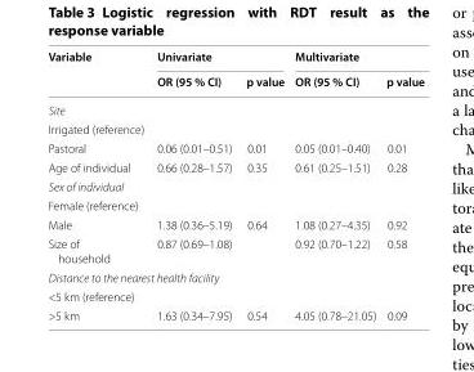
<table><thead><tr><td rowspan="2">Variable</td><td colspan="2">Univariate</td><td colspan="2">Multivariate</td></tr><tr><td>OR (95 % CI)</td><td>p value</td><td>OR (95 % CI)</td><td>p value</td></tr></thead><tbody><tr><td colspan="5">Site</td></tr><tr><td colspan="5">Irrigated (reference)</td></tr><tr><td>Pastoral</td><td>0.06 (0.01–0.51)</td><td>0.01</td><td>0.05 (0.01–0.40)</td><td>0.01</td></tr><tr><td>Age of individual</td><td>0.66 (0.28–1.57)</td><td>0.35</td><td>0.61 (0.25–1.51)</td><td>0.28</td></tr><tr><td colspan="5">Sex of individual</td></tr><tr><td colspan="5">Female (reference)</td></tr><tr><td>Male</td><td>1.38 (0.36–5.19)</td><td>0.64</td><td>1.08 (0.27–4.35)</td><td>0.92</td></tr><tr><td>Size of household</td><td>0.87 (0.69–1.08)</td><td></td><td>0.92 (0.70–1.22)</td><td>0.58</td></tr><tr><td colspan="5">Distance to the nearest health facility</td></tr><tr><td colspan="5">&lt;5 km (reference)</td></tr><tr><td>&gt;5 km</td><td>1.63 (0.34–7.95)</td><td>0.54</td><td>4.05 (0.78–21.05)</td><td>0.09</td></tr></tbody></table>